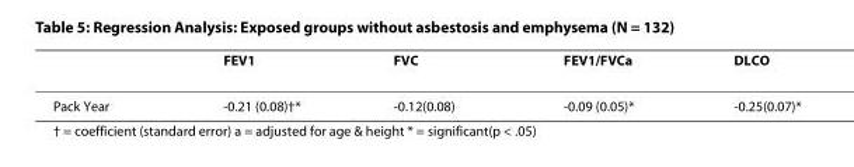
<table><thead><tr><td></td><td>FEV1</td><td>FVC</td><td>FEV1/FVCa</td><td>DLCO</td></tr></thead><tbody><tr><td>Pack Year</td><td>-0.21 (0.08)†*</td><td>-0.12(0.08)</td><td>-0.09 (0.05)*</td><td>-0.25(0.07)*</td></tr></tbody></table>